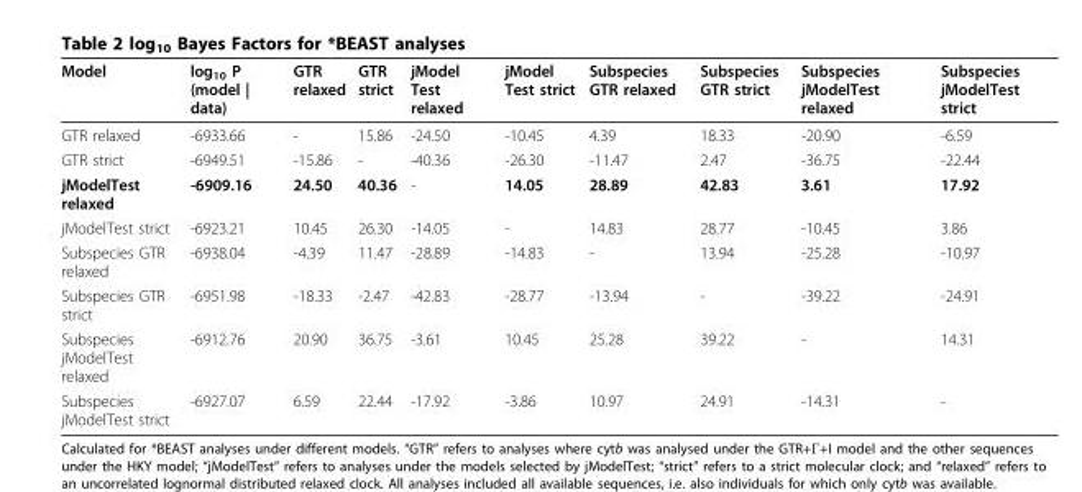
<table><thead><tr><td>Model</td><td>log<sub>10</sub> P (model | data)</td><td>GTR relaxed</td><td>GTR strict</td><td>jModel Test relaxed</td><td>jModel Test strict</td><td>Subspecies GTR relaxed</td><td>Subspecies GTR strict</td><td>Subspecies jModelTest relaxed</td><td>Subspecies jModelTest strict</td></tr></thead><tbody><tr><td>GTR relaxed</td><td>-6933.66</td><td>-</td><td>15.86</td><td>-24.50</td><td>-10.45</td><td>4.39</td><td>18.33</td><td>-20.90</td><td>-6.59</td></tr><tr><td>GTR strict</td><td>-6949.51</td><td>-15.86</td><td>-</td><td>-40.36</td><td>-26.30</td><td>-11.47</td><td>2.47</td><td>-36.75</td><td>-22.44</td></tr><tr><td>jModelTest relaxed</td><td>-6909.16</td><td>24.50</td><td>40.36</td><td>-</td><td>14.05</td><td>28.89</td><td>42.83</td><td>3.61</td><td>17.92</td></tr><tr><td>jModelTest strict</td><td>-6923.21</td><td>10.45</td><td>26.30</td><td>-14.05</td><td>-</td><td>14.83</td><td>28.77</td><td>-10.45</td><td>3.86</td></tr><tr><td>Subspecies GTR relaxed</td><td>-6938.04</td><td>-4.39</td><td>11.47</td><td>-28.89</td><td>-14.83</td><td>-</td><td>13.94</td><td>-25.28</td><td>-10.97</td></tr><tr><td>Subspecies GTR strict</td><td>-6951.98</td><td>-18.33</td><td>-2.47</td><td>-42.83</td><td>-28.77</td><td>-13.94</td><td>-</td><td>-39.22</td><td>-24.91</td></tr><tr><td>Subspecies jModelTest relaxed</td><td>-6912.76</td><td>20.90</td><td>36.75</td><td>-3.61</td><td>10.45</td><td>25.28</td><td>39.22</td><td>-</td><td>14.31</td></tr><tr><td>Subspecies jModelTest strict</td><td>-6927.07</td><td>6.59</td><td>22.44</td><td>-17.92</td><td>-3.86</td><td>10.97</td><td>24.91</td><td>-14.31</td><td>-</td></tr></tbody></table>